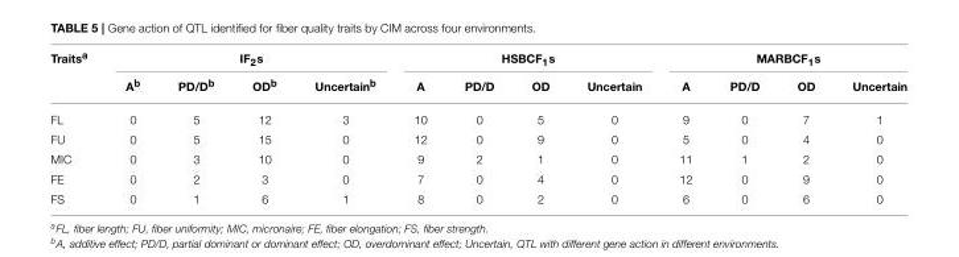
<table><thead><tr><td rowspan="2">Traits<sup>a</sup></td><td colspan="4">IF<sub>2</sub>s</td><td colspan="4">HSBCF<sub>1</sub>s</td><td colspan="4">MARBCF<sub>1</sub>s</td></tr><tr><td>A<sup>b</sup></td><td>PD/D<sup>b</sup></td><td>OD<sup>b</sup></td><td>Uncertain<sup>b</sup></td><td>A</td><td>PD/D</td><td>OD</td><td>Uncertain</td><td>A</td><td>PD/D</td><td>OD</td><td>Uncertain</td></tr></thead><tbody><tr><td>FL</td><td>0</td><td>5</td><td>12</td><td>3</td><td>10</td><td>0</td><td>5</td><td>0</td><td>9</td><td>0</td><td>7</td><td>1</td></tr><tr><td>FU</td><td>0</td><td>5</td><td>15</td><td>0</td><td>12</td><td>0</td><td>9</td><td>0</td><td>5</td><td>0</td><td>4</td><td>0</td></tr><tr><td>MIC</td><td>0</td><td>3</td><td>10</td><td>0</td><td>9</td><td>2</td><td>1</td><td>0</td><td>11</td><td>1</td><td>2</td><td>0</td></tr><tr><td>FE</td><td>0</td><td>2</td><td>3</td><td>0</td><td>7</td><td>0</td><td>4</td><td>0</td><td>12</td><td>0</td><td>9</td><td>0</td></tr><tr><td>FS</td><td>0</td><td>1</td><td>6</td><td>1</td><td>8</td><td>0</td><td>2</td><td>0</td><td>6</td><td>0</td><td>6</td><td>0</td></tr></tbody></table>